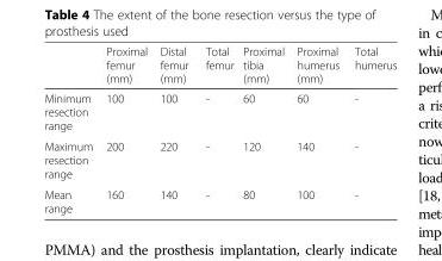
<table><thead><tr><td></td><td>Proximal femur (mm)</td><td>Distal femur (mm)</td><td>Total femur</td><td>Proximal tibia (mm)</td><td>Proximal humerus (mm)</td><td>Total humerus</td></tr></thead><tbody><tr><td>Minimum resection range</td><td>100</td><td>100</td><td>-</td><td>60</td><td>60</td><td>-</td></tr><tr><td>Maximum resection range</td><td>200</td><td>220</td><td>-</td><td>120</td><td>140</td><td>-</td></tr><tr><td>Mean range</td><td>160</td><td>140</td><td>-</td><td>80</td><td>100</td><td>-</td></tr></tbody></table>